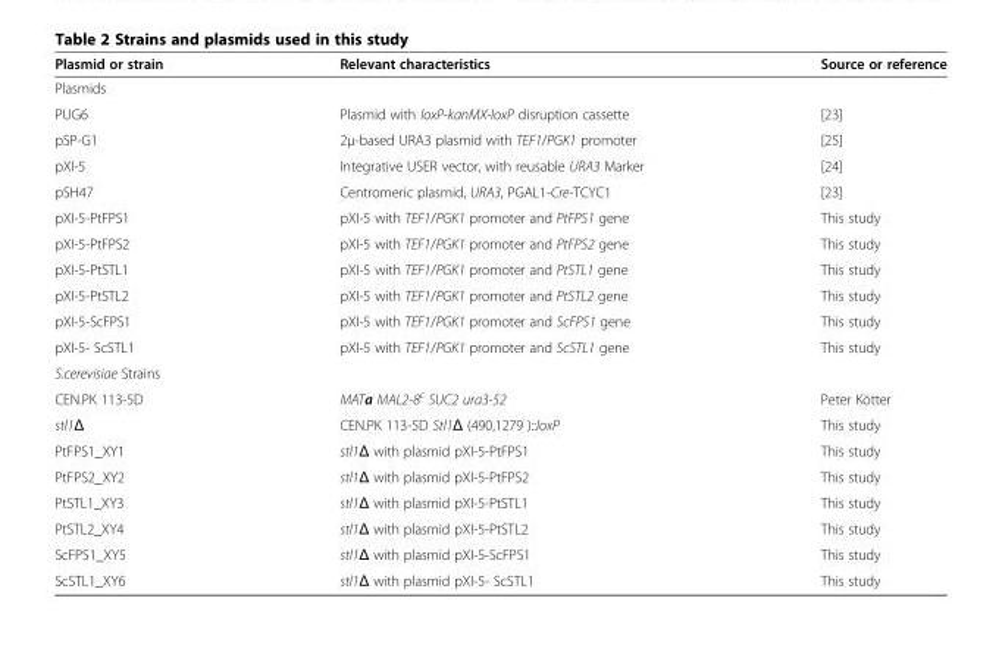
<table><thead><tr><td>Plasmid or strain</td><td>Relevant characteristics</td><td>Source or reference</td></tr></thead><tbody><tr><td colspan="3">Plasmids</td></tr><tr><td>PUG6</td><td>Plasmid with loxP-kanMX-loxP disruption cassette</td><td>[23]</td></tr><tr><td>pSP-G1</td><td>2μ-based URA3 plasmid with TEF1/PGK1 promoter</td><td>[25]</td></tr><tr><td>pXI-5</td><td>Integrative USER vector, with reusable URA3 Marker</td><td>[24]</td></tr><tr><td>pSH47</td><td>Centromeric plasmid, URA3, PGAL1-Cre-TCYC1</td><td>[23]</td></tr><tr><td>pXI-5-PtFPS1</td><td>pXI-5 with TEF1/PGK1 promoter and PtFPS1 gene</td><td>This study</td></tr><tr><td>pXI-5-PtFPS2</td><td>pXI-5 with TEF1/PGK1 promoter and PtFPS2 gene</td><td>This study</td></tr><tr><td>pXI-5-PtSTL1</td><td>pXI-5 with TEF1/PGK1 promoter and PtSTL1 gene</td><td>This study</td></tr><tr><td>pXI-5-PtSTL2</td><td>pXI-5 with TEF1/PGK1 promoter and PtSTL2 gene</td><td>This study</td></tr><tr><td>pXI-5-ScFPS1</td><td>pXI-5 with TEF1/PGK1 promoter and ScFPS1 gene</td><td>This study</td></tr><tr><td>pXI-5- ScSTL1</td><td>pXI-5 with TEF1/PGK1 promoter and ScSTL1 gene</td><td>This study</td></tr><tr><td colspan="3">S.cerevisiae Strains</td></tr><tr><td>CEN.PK 113-5D</td><td>MATa MAL2-8<sup>c</sup> SUC2 ura3-52</td><td>Peter Kötter</td></tr><tr><td>stl1Δ</td><td>CEN.PK 113-5D Stl1Δ (490,1279 )::loxP</td><td>This study</td></tr><tr><td>PtFPS1_XY1</td><td>stl1Δ with plasmid pXI-5-PtFPS1</td><td>This study</td></tr><tr><td>PtFPS2_XY2</td><td>stl1Δ with plasmid pXI-5-PtFPS2</td><td>This study</td></tr><tr><td>PtSTL1_XY3</td><td>stl1Δ with plasmid pXI-5-PtSTL1</td><td>This study</td></tr><tr><td>PtSTL2_XY4</td><td>stl1Δ with plasmid pXI-5-PtSTL2</td><td>This study</td></tr><tr><td>ScFPS1_XY5</td><td>stl1Δ with plasmid pXI-5-ScFPS1</td><td>This study</td></tr><tr><td>ScSTL1_XY6</td><td>stl1Δ with plasmid pXI-5- ScSTL1</td><td>This study</td></tr></tbody></table>